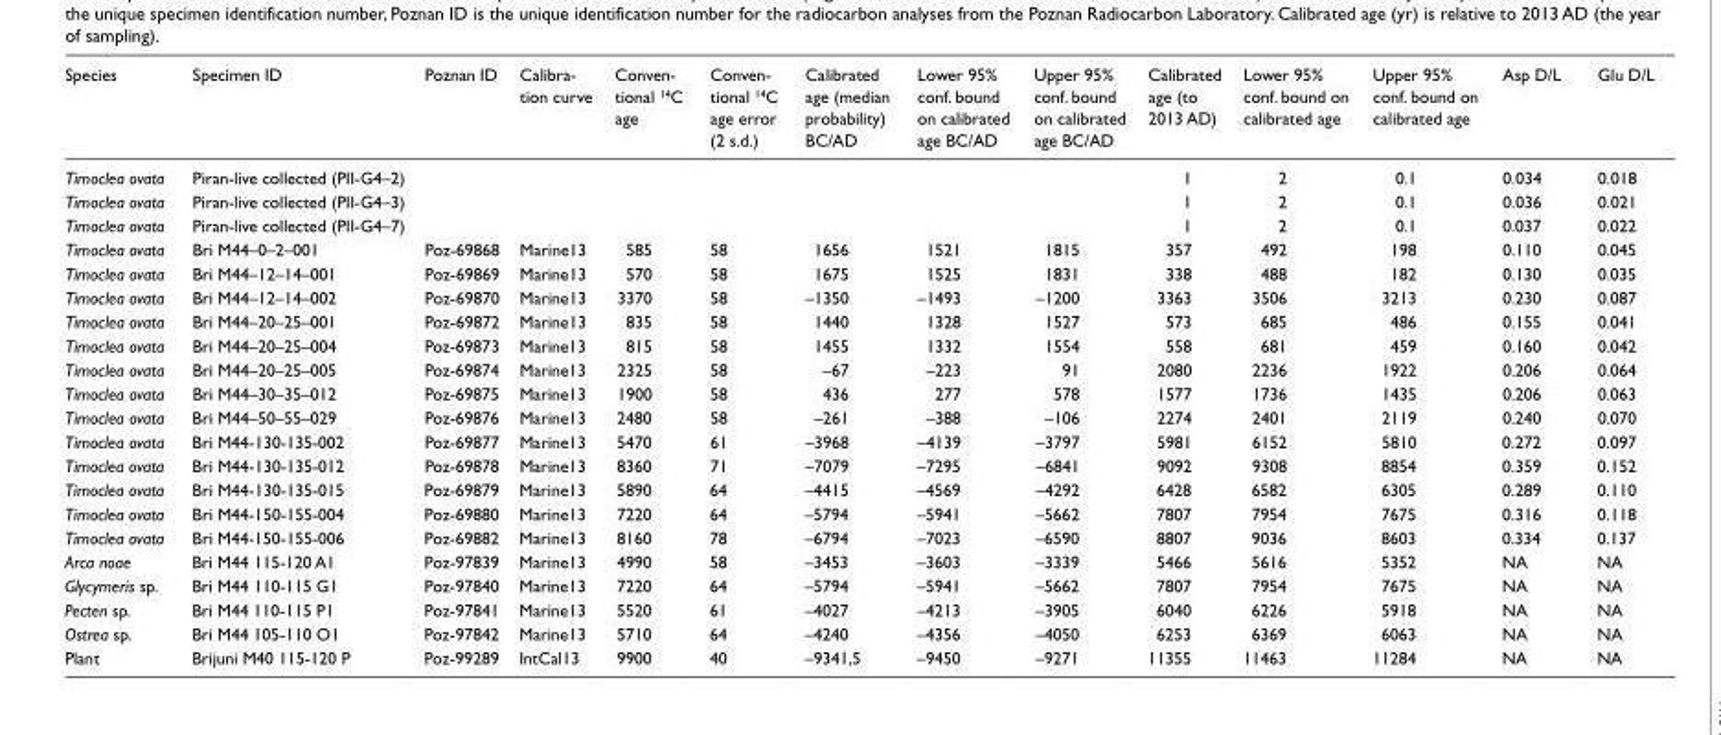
<table><thead><tr><td>Species</td><td>Specimen ID</td><td>Poznan ID</td><td>Calibra- tion curve</td><td>Conven- tional 14C age</td><td>Conven- tional 14C age error (2 s.d.)</td><td>Calibrated age (median probability) BC/AD</td><td>Lower 95% conf. bound on calibrated age BC/AD</td><td>Upper 95% conf. bound on calibrated age BC/AD</td><td>Calibrated age (to 2013 AD)</td><td>Lower 95% conf. bound on calibrated age</td><td>Upper 95% conf. bound on calibrated age</td><td>Asp D/L</td><td>Glu D/L</td></tr></thead><tbody><tr><td>Timoclea ovata</td><td>Piran-live collected (PII-G4–2)</td><td></td><td></td><td></td><td></td><td></td><td></td><td></td><td>1</td><td>2</td><td>0.1</td><td>0.034</td><td>0.018</td></tr><tr><td>Timoclea ovata</td><td>Piran-live collected (PII-G4–3)</td><td></td><td></td><td></td><td></td><td></td><td></td><td></td><td>1</td><td>2</td><td>0.1</td><td>0.036</td><td>0.021</td></tr><tr><td>Timoclea ovata</td><td>Piran-live collected (PII-G4–7)</td><td></td><td></td><td></td><td></td><td></td><td></td><td></td><td>1</td><td>2</td><td>0.1</td><td>0.037</td><td>0.022</td></tr><tr><td>Timoclea ovata</td><td>Bri M44–0–2–001</td><td>Poz-69868</td><td>Marine13</td><td>585</td><td>58</td><td>1656</td><td>1521</td><td>1815</td><td>357</td><td>492</td><td>198</td><td>0.110</td><td>0.045</td></tr><tr><td>Timoclea ovata</td><td>Bri M44–12–14–001</td><td>Poz-69869</td><td>Marine13</td><td>570</td><td>58</td><td>1675</td><td>1525</td><td>1831</td><td>338</td><td>488</td><td>182</td><td>0.130</td><td>0.035</td></tr><tr><td>Timoclea ovata</td><td>Bri M44–12–14–002</td><td>Poz-69870</td><td>Marine13</td><td>3370</td><td>58</td><td>–1350</td><td>–1493</td><td>–1200</td><td>3363</td><td>3506</td><td>3213</td><td>0.230</td><td>0.087</td></tr><tr><td>Timoclea ovata</td><td>Bri M44–20–25–001</td><td>Poz-69872</td><td>Marine13</td><td>835</td><td>58</td><td>1440</td><td>1328</td><td>1527</td><td>573</td><td>685</td><td>486</td><td>0.155</td><td>0.041</td></tr><tr><td>Timoclea ovata</td><td>Bri M44–20–25–004</td><td>Poz-69873</td><td>Marine13</td><td>815</td><td>58</td><td>1455</td><td>1332</td><td>1554</td><td>558</td><td>681</td><td>459</td><td>0.160</td><td>0.042</td></tr><tr><td>Timoclea ovata</td><td>Bri M44–20–25–005</td><td>Poz-69874</td><td>Marine13</td><td>2325</td><td>58</td><td>–67</td><td>–223</td><td>91</td><td>2080</td><td>2236</td><td>1922</td><td>0.206</td><td>0.064</td></tr><tr><td>Timoclea ovata</td><td>Bri M44–30–35–012</td><td>Poz-69875</td><td>Marine13</td><td>1900</td><td>58</td><td>436</td><td>277</td><td>578</td><td>1577</td><td>1736</td><td>1435</td><td>0.206</td><td>0.063</td></tr><tr><td>Timoclea ovata</td><td>Bri M44–50–55–029</td><td>Poz-69876</td><td>Marine13</td><td>2480</td><td>58</td><td>–261</td><td>–388</td><td>–106</td><td>2274</td><td>2401</td><td>2119</td><td>0.240</td><td>0.070</td></tr><tr><td>Timoclea ovata</td><td>Bri M44-130-135-002</td><td>Poz-69877</td><td>Marine13</td><td>5470</td><td>61</td><td>–3968</td><td>–4139</td><td>–3797</td><td>5981</td><td>6152</td><td>5810</td><td>0.272</td><td>0.097</td></tr><tr><td>Timoclea ovata</td><td>Bri M44-130-135-012</td><td>Poz-69878</td><td>Marine13</td><td>8360</td><td>71</td><td>–7079</td><td>–7295</td><td>–6841</td><td>9092</td><td>9308</td><td>8854</td><td>0.359</td><td>0.152</td></tr><tr><td>Timoclea ovata</td><td>Bri M44-130-135-015</td><td>Poz-69879</td><td>Marine13</td><td>5890</td><td>64</td><td>–4415</td><td>–4569</td><td>–4292</td><td>6428</td><td>6582</td><td>6305</td><td>0.289</td><td>0.110</td></tr><tr><td>Timoclea ovata</td><td>Bri M44-150-155-004</td><td>Poz-69880</td><td>Marine13</td><td>7220</td><td>64</td><td>–5794</td><td>–5941</td><td>–5662</td><td>7807</td><td>7954</td><td>7675</td><td>0.316</td><td>0.118</td></tr><tr><td>Timoclea ovata</td><td>Bri M44-150-155-006</td><td>Poz-69882</td><td>Marine13</td><td>8160</td><td>78</td><td>–6794</td><td>–7023</td><td>–6590</td><td>8807</td><td>9036</td><td>8603</td><td>0.334</td><td>0.137</td></tr><tr><td>Arca noae</td><td>Bri M44 115-120 A1</td><td>Poz-97839</td><td>Marine13</td><td>4990</td><td>58</td><td>–3453</td><td>–3603</td><td>–3339</td><td>5466</td><td>5616</td><td>5352</td><td>NA</td><td>NA</td></tr><tr><td>Glycymeris sp.</td><td>Bri M44 110-115 G1</td><td>Poz-97840</td><td>Marine13</td><td>7220</td><td>64</td><td>–5794</td><td>–5941</td><td>–5662</td><td>7807</td><td>7954</td><td>7675</td><td>NA</td><td>NA</td></tr><tr><td>Pecten sp.</td><td>Bri M44 110-115 P1</td><td>Poz-97841</td><td>Marine13</td><td>5520</td><td>61</td><td>–4027</td><td>–4213</td><td>–3905</td><td>6040</td><td>6226</td><td>5918</td><td>NA</td><td>NA</td></tr><tr><td>Ostrea sp.</td><td>Bri M44 105-110 O1</td><td>Poz-97842</td><td>Marine13</td><td>5710</td><td>64</td><td>–4240</td><td>–4356</td><td>–4050</td><td>6253</td><td>6369</td><td>6063</td><td>NA</td><td>NA</td></tr><tr><td>Plant</td><td>Brijuni M40 115-120 P</td><td>Poz-99289</td><td>IntCal13</td><td>9900</td><td>40</td><td>–9341,5</td><td>–9450</td><td>–9271</td><td>11355</td><td>11463</td><td>11284</td><td>NA</td><td>NA</td></tr></tbody></table>